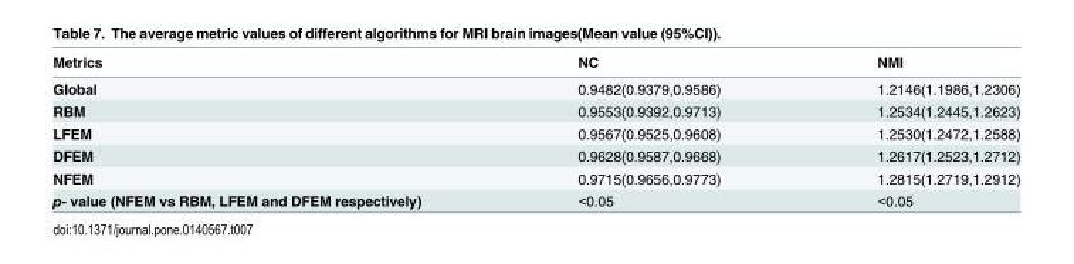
<table><thead><tr><td>Metrics</td><td>NC</td><td>NMI</td></tr></thead><tbody><tr><td>Global</td><td>0.9482(0.9379,0.9586)</td><td>1.2146(1.1986,1.2306)</td></tr><tr><td>RBM</td><td>0.9553(0.9392,0.9713)</td><td>1.2534(1.2445,1.2623)</td></tr><tr><td>LFEM</td><td>0.9567(0.9525,0.9608)</td><td>1.2530(1.2472,1.2588)</td></tr><tr><td>DFEM</td><td>0.9628(0.9587,0.9668)</td><td>1.2617(1.2523,1.2712)</td></tr><tr><td>NFEM</td><td>0.9715(0.9656,0.9773)</td><td>1.2815(1.2719,1.2912)</td></tr><tr><td>p- value (NFEM vs RBM, LFEM and DFEM respectively)</td><td>&lt;0.05</td><td>&lt;0.05</td></tr></tbody></table>